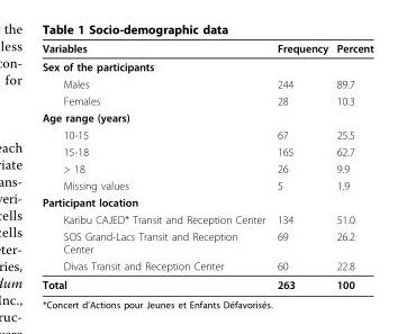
<table><thead><tr><td>Variables</td><td>Frequency</td><td>Percent</td></tr></thead><tbody><tr><td colspan="3">Sex of the participants</td></tr><tr><td>Males</td><td>244</td><td>89.7</td></tr><tr><td>Females</td><td>28</td><td>10.3</td></tr><tr><td colspan="3">Age range (years)</td></tr><tr><td>10-15</td><td>67</td><td>25.5</td></tr><tr><td>15-18</td><td>165</td><td>62.7</td></tr><tr><td>&gt; 18</td><td>26</td><td>9.9</td></tr><tr><td>Missing values</td><td>5</td><td>1.9</td></tr><tr><td colspan="3">Participant location</td></tr><tr><td>Karibu CAJED* Transit and Reception Center</td><td>134</td><td>51.0</td></tr><tr><td>SOS Grand-Lacs Transit and Reception Center</td><td>69</td><td>26.2</td></tr><tr><td>Divas Transit and Reception Center</td><td>60</td><td>22.8</td></tr><tr><td>Total</td><td>263</td><td>100</td></tr></tbody></table>